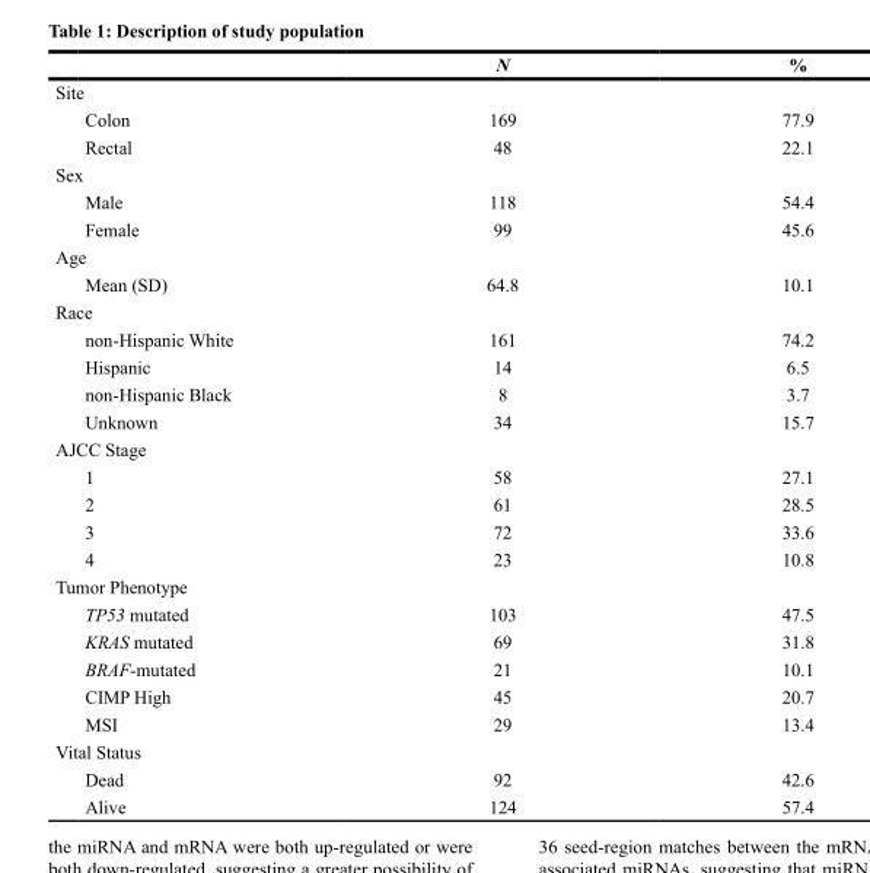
<table><thead><tr><td></td><td>N</td><td>%</td></tr></thead><tbody><tr><td colspan="3">Site</td></tr><tr><td>Colon</td><td>169</td><td>77.9</td></tr><tr><td>Rectal</td><td>48</td><td>22.1</td></tr><tr><td colspan="3">Sex</td></tr><tr><td>Male</td><td>118</td><td>54.4</td></tr><tr><td>Female</td><td>99</td><td>45.6</td></tr><tr><td colspan="3">Age</td></tr><tr><td>Mean (SD)</td><td>64.8</td><td>10.1</td></tr><tr><td colspan="3">Race</td></tr><tr><td>non-Hispanic White</td><td>161</td><td>74.2</td></tr><tr><td>Hispanic</td><td>14</td><td>6.5</td></tr><tr><td>non-Hispanic Black</td><td>8</td><td>3.7</td></tr><tr><td>Unknown</td><td>34</td><td>15.7</td></tr><tr><td colspan="3">AJCC Stage</td></tr><tr><td>1</td><td>58</td><td>27.1</td></tr><tr><td>2</td><td>61</td><td>28.5</td></tr><tr><td>3</td><td>72</td><td>33.6</td></tr><tr><td>4</td><td>23</td><td>10.8</td></tr><tr><td colspan="3">Tumor Phenotype</td></tr><tr><td>TP53 mutated</td><td>103</td><td>47.5</td></tr><tr><td>KRAS mutated</td><td>69</td><td>31.8</td></tr><tr><td>BRAF-mutated</td><td>21</td><td>10.1</td></tr><tr><td>CIMP High</td><td>45</td><td>20.7</td></tr><tr><td>MSI</td><td>29</td><td>13.4</td></tr><tr><td colspan="3">Vital Status</td></tr><tr><td>Dead</td><td>92</td><td>42.6</td></tr><tr><td>Alive</td><td>124</td><td>57.4</td></tr></tbody></table>